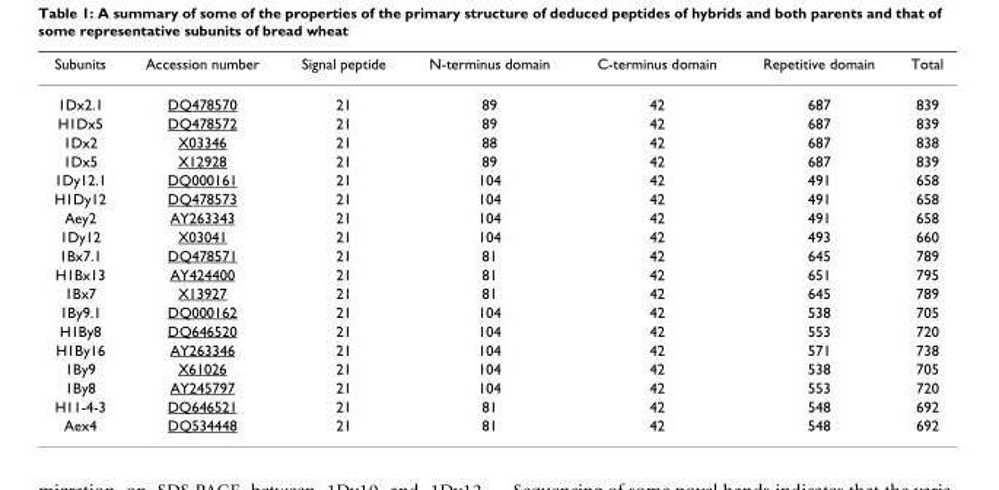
<table><thead><tr><td>Subunits</td><td>Accession number</td><td>Signal peptide</td><td>N-terminus domain</td><td>C-terminus domain</td><td>Repetitive domain</td><td>Total</td></tr></thead><tbody><tr><td>1Dx2.1</td><td>DQ478570</td><td>21</td><td>89</td><td>42</td><td>687</td><td>839</td></tr><tr><td>H1Dx5</td><td>DQ478572</td><td>21</td><td>89</td><td>42</td><td>687</td><td>839</td></tr><tr><td>1Dx2</td><td>X03346</td><td>21</td><td>88</td><td>42</td><td>687</td><td>838</td></tr><tr><td>1Dx5</td><td>X12928</td><td>21</td><td>89</td><td>42</td><td>687</td><td>839</td></tr><tr><td>1Dy12.1</td><td>DQ000161</td><td>21</td><td>104</td><td>42</td><td>491</td><td>658</td></tr><tr><td>H1Dy12</td><td>DQ478573</td><td>21</td><td>104</td><td>42</td><td>491</td><td>658</td></tr><tr><td>Aey2</td><td>AY263343</td><td>21</td><td>104</td><td>42</td><td>491</td><td>658</td></tr><tr><td>1Dy12</td><td>X03041</td><td>21</td><td>104</td><td>42</td><td>493</td><td>660</td></tr><tr><td>1Bx7.1</td><td>DQ478571</td><td>21</td><td>81</td><td>42</td><td>645</td><td>789</td></tr><tr><td>H1Bx13</td><td>AY424400</td><td>21</td><td>81</td><td>42</td><td>651</td><td>795</td></tr><tr><td>1Bx7</td><td>X13927</td><td>21</td><td>81</td><td>42</td><td>645</td><td>789</td></tr><tr><td>1By9.1</td><td>DQ000162</td><td>21</td><td>104</td><td>42</td><td>538</td><td>705</td></tr><tr><td>H1By8</td><td>DQ646520</td><td>21</td><td>104</td><td>42</td><td>553</td><td>720</td></tr><tr><td>H1By16</td><td>AY263346</td><td>21</td><td>104</td><td>42</td><td>571</td><td>738</td></tr><tr><td>1By9</td><td>X61026</td><td>21</td><td>104</td><td>42</td><td>538</td><td>705</td></tr><tr><td>1By8</td><td>AY245797</td><td>21</td><td>104</td><td>42</td><td>553</td><td>720</td></tr><tr><td>H11-4-3</td><td>DQ646521</td><td>21</td><td>81</td><td>42</td><td>548</td><td>692</td></tr><tr><td>Aex4</td><td>DQ534448</td><td>21</td><td>81</td><td>42</td><td>548</td><td>692</td></tr></tbody></table>